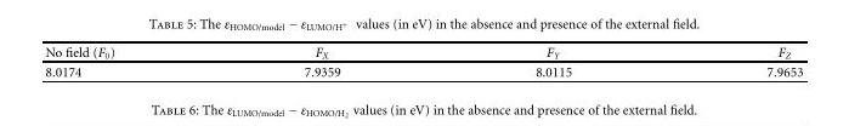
<table><thead><tr><td>No field (F<sub>0</sub>)</td><td>F<sub>X</sub></td><td>F<sub>Y</sub></td><td>F<sub>Z</sub></td></tr></thead><tbody><tr><td>8.0174</td><td>7.9359</td><td>8.0115</td><td>7.9653</td></tr></tbody></table>